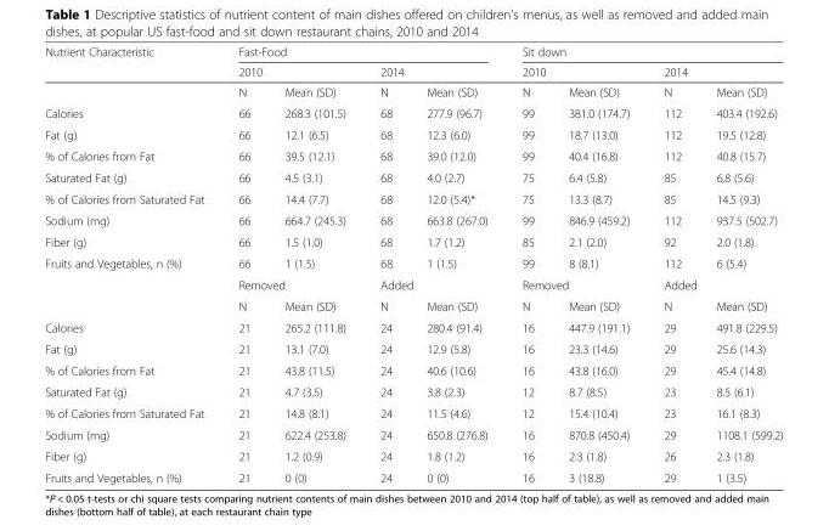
<table><thead><tr><td rowspan="3">Nutrient Characteristic</td><td colspan="4">Fast-Food</td><td colspan="4">Sit down</td></tr><tr><td colspan="2">2010</td><td colspan="2">2014</td><td colspan="2">2010</td><td colspan="2">2014</td></tr><tr><td>N</td><td>Mean (SD)</td><td>N</td><td>Mean (SD)</td><td>N</td><td>Mean (SD)</td><td>N</td><td>Mean (SD)</td></tr></thead><tbody><tr><td>Calories</td><td>66</td><td>268.3 (101.5)</td><td>68</td><td>277.9 (96.7)</td><td>99</td><td>381.0 (174.7)</td><td>112</td><td>403.4 (192.6)</td></tr><tr><td>Fat (g)</td><td>66</td><td>12.1 (6.5)</td><td>68</td><td>12.3 (6.0)</td><td>99</td><td>18.7 (13.0)</td><td>112</td><td>19.5 (12.8)</td></tr><tr><td>% of Calories from Fat</td><td>66</td><td>39.5 (12.1)</td><td>68</td><td>39.0 (12.0)</td><td>99</td><td>40.4 (16.8)</td><td>112</td><td>40.8 (15.7)</td></tr><tr><td>Saturated Fat (g)</td><td>66</td><td>4.5 (3.1)</td><td>68</td><td>4.0 (2.7)</td><td>75</td><td>6.4 (5.8)</td><td>85</td><td>6.8 (5.6)</td></tr><tr><td>% of Calories from Saturated Fat</td><td>66</td><td>14.4 (7.7)</td><td>68</td><td>12.0 (5.4)*</td><td>75</td><td>13.3 (8.7)</td><td>85</td><td>14.5 (9.3)</td></tr><tr><td>Sodium (mg)</td><td>66</td><td>664.7 (245.3)</td><td>68</td><td>663.8 (267.0)</td><td>99</td><td>846.9 (459.2)</td><td>112</td><td>937.5 (502.7)</td></tr><tr><td>Fiber (g)</td><td>66</td><td>1.5 (1.0)</td><td>68</td><td>1.7 (1.2)</td><td>85</td><td>2.1 (2.0)</td><td>92</td><td>2.0 (1.8)</td></tr><tr><td rowspan="3">Fruits and Vegetables, n (%)</td><td>66</td><td>1 (1.5)</td><td>68</td><td>1 (1.5)</td><td>99</td><td>8 (8.1)</td><td>112</td><td>6 (5.4)</td></tr><tr><td colspan="2">Removed</td><td colspan="2">Added</td><td colspan="2">Removed</td><td colspan="2">Added</td></tr><tr><td>N</td><td>Mean (SD)</td><td>N</td><td>Mean (SD)</td><td>N</td><td>Mean (SD)</td><td>N</td><td>Mean (SD)</td></tr><tr><td>Calories</td><td>21</td><td>265.2 (111.8)</td><td>24</td><td>280.4 (91.4)</td><td>16</td><td>447.9 (191.1)</td><td>29</td><td>491.8 (229.5)</td></tr><tr><td>Fat (g)</td><td>21</td><td>13.1 (7.0)</td><td>24</td><td>12.9 (5.8)</td><td>16</td><td>23.3 (14.6)</td><td>29</td><td>25.6 (14.3)</td></tr><tr><td>% of Calories from Fat</td><td>21</td><td>43.8 (11.5)</td><td>24</td><td>40.6 (10.6)</td><td>16</td><td>43.8 (16.0)</td><td>29</td><td>45.4 (14.8)</td></tr><tr><td>Saturated Fat (g)</td><td>21</td><td>4.7 (3.5)</td><td>24</td><td>3.8 (2.3)</td><td>12</td><td>8.7 (8.5)</td><td>23</td><td>8.5 (6.1)</td></tr><tr><td>% of Calories from Saturated Fat</td><td>21</td><td>14.8 (8.1)</td><td>24</td><td>11.5 (4.6)</td><td>12</td><td>15.4 (10.4)</td><td>23</td><td>16.1 (8.3)</td></tr><tr><td>Sodium (mg)</td><td>21</td><td>622.4 (253.8)</td><td>24</td><td>650.8 (276.8)</td><td>16</td><td>870.8 (450.4)</td><td>29</td><td>1108.1 (599.2)</td></tr><tr><td>Fiber (g)</td><td>21</td><td>1.2 (0.9)</td><td>24</td><td>1.8 (1.2)</td><td>16</td><td>2.3 (1.8)</td><td>26</td><td>2.3 (1.8)</td></tr><tr><td>Fruits and Vegetables, n (%)</td><td>21</td><td>0 (0)</td><td>24</td><td>0 (0)</td><td>16</td><td>3 (18.8)</td><td>29</td><td>1 (3.5)</td></tr></tbody></table>